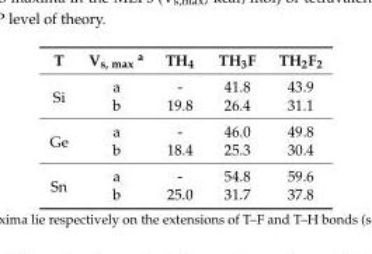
<table><thead><tr><td>T</td><td>V<sub>s, max</sub> <sup>a</sup></td><td>TH<sub>4</sub></td><td>TH<sub>3</sub>F</td><td>TH<sub>2</sub>F<sub>2</sub></td></tr></thead><tbody><tr><td rowspan="2">Si</td><td>a</td><td>-</td><td>41.8</td><td>43.9</td></tr><tr><td>b</td><td>19.8</td><td>26.4</td><td>31.1</td></tr><tr><td rowspan="2">Ge</td><td>a</td><td>-</td><td>46.0</td><td>49.8</td></tr><tr><td>b</td><td>18.4</td><td>25.3</td><td>30.4</td></tr><tr><td rowspan="2">Sn</td><td>a</td><td>-</td><td>54.8</td><td>59.6</td></tr><tr><td>b</td><td>25.0</td><td>31.7</td><td>37.8</td></tr></tbody></table>